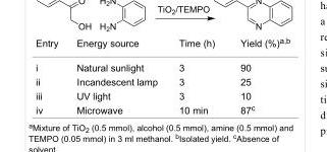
<table><tbody><tr><td>Entry</td><td>Energy source</td><td>Time (h)</td><td>Yield (%)<sup>a,b</sup></td></tr><tr><td>i</td><td>Natural sunlight</td><td>3</td><td>90</td></tr><tr><td>ii</td><td>Incandescent lamp</td><td>3</td><td>25</td></tr><tr><td>iii</td><td>UV light</td><td>3</td><td>10</td></tr><tr><td>iv</td><td>Microwave</td><td>10 min</td><td>87<sup>c</sup></td></tr></tbody></table>